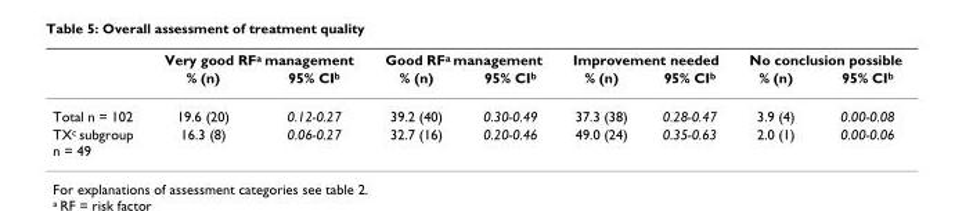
<table><thead><tr><td rowspan="2"></td><td colspan="2">Very good RFa management</td><td colspan="2">Good RFa management</td><td colspan="2">Improvement needed</td><td colspan="2">No conclusion possible</td></tr><tr><td>% (n)</td><td>95% CI<sup>b</sup></td><td>% (n)</td><td>95% CI<sup>b</sup></td><td>% (n)</td><td>95% CI<sup>b</sup></td><td>% (n)</td><td>95% CI<sup>b</sup></td></tr></thead><tbody><tr><td>Total n = 102</td><td>19.6 (20)</td><td>0.12-0.27</td><td>39.2 (40)</td><td>0.30-0.49</td><td>37.3 (38)</td><td>0.28-0.47</td><td>3.9 (4)</td><td>0.00-0.08</td></tr><tr><td>TX<sup>c</sup> subgroup n = 49</td><td>16.3 (8)</td><td>0.06-0.27</td><td>32.7 (16)</td><td>0.20-0.46</td><td>49.0 (24)</td><td>0.35-0.63</td><td>2.0 (1)</td><td>0.00-0.06</td></tr></tbody></table>